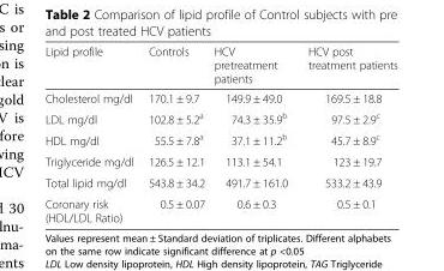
<table><thead><tr><td>Lipid profile</td><td>Controls</td><td>HCV pretreatment patients</td><td>HCV post treatment patients</td></tr></thead><tbody><tr><td>Cholesterol mg/dl</td><td>170.1 ± 9.7</td><td>149.9 ± 49.0</td><td>169.5 ± 18.8</td></tr><tr><td>LDL mg/dl</td><td>102.8 ± 5.2<sup>a</sup></td><td>74.3 ± 35.9<sup>b</sup></td><td>97.5 ± 2.9<sup>c</sup></td></tr><tr><td>HDL mg/dl</td><td>55.5 ± 7.8<sup>a</sup></td><td>37.1 ± 11.2<sup>b</sup></td><td>45.7 ± 8.9<sup>c</sup></td></tr><tr><td>Triglyceride mg/dl</td><td>126.5 ± 12.1</td><td>113.1 ± 54.1</td><td>123 ± 19.7</td></tr><tr><td>Total lipid mg/dl</td><td>543.8 ± 34.2</td><td>491.7 ± 161.0</td><td>533.2 ± 43.9</td></tr><tr><td>Coronary risk (HDL/LDL Ratio)</td><td>0.5 ± 0.07</td><td>0.6 ± 0.3</td><td>0.5 ± 0.1</td></tr></tbody></table>